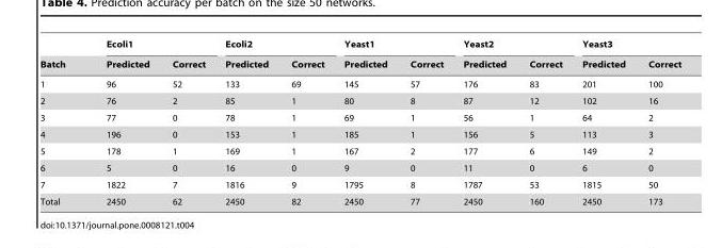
<table><thead><tr><td rowspan="2">Batch</td><td colspan="2">Ecoli1</td><td colspan="2">Ecoli2</td><td colspan="2">Yeast1</td><td colspan="2">Yeast2</td><td colspan="2">Yeast3</td></tr><tr><td>Predicted</td><td>Correct</td><td>Predicted</td><td>Correct</td><td>Predicted</td><td>Correct</td><td>Predicted</td><td>Correct</td><td>Predicted</td><td>Correct</td></tr></thead><tbody><tr><td>1</td><td>96</td><td>52</td><td>133</td><td>69</td><td>145</td><td>57</td><td>176</td><td>83</td><td>201</td><td>100</td></tr><tr><td>2</td><td>76</td><td>2</td><td>85</td><td>1</td><td>80</td><td>8</td><td>87</td><td>12</td><td>102</td><td>16</td></tr><tr><td>3</td><td>77</td><td>0</td><td>78</td><td>1</td><td>69</td><td>1</td><td>56</td><td>1</td><td>64</td><td>2</td></tr><tr><td>4</td><td>196</td><td>0</td><td>153</td><td>1</td><td>185</td><td>1</td><td>156</td><td>5</td><td>113</td><td>3</td></tr><tr><td>5</td><td>178</td><td>1</td><td>169</td><td>1</td><td>167</td><td>2</td><td>177</td><td>6</td><td>149</td><td>2</td></tr><tr><td>6</td><td>5</td><td>0</td><td>16</td><td>0</td><td>9</td><td>0</td><td>11</td><td>0</td><td>6</td><td>0</td></tr><tr><td>7</td><td>1822</td><td>7</td><td>1816</td><td>9</td><td>1795</td><td>8</td><td>1787</td><td>53</td><td>1815</td><td>50</td></tr><tr><td>Total</td><td>2450</td><td>62</td><td>2450</td><td>82</td><td>2450</td><td>77</td><td>2450</td><td>160</td><td>2450</td><td>173</td></tr></tbody></table>